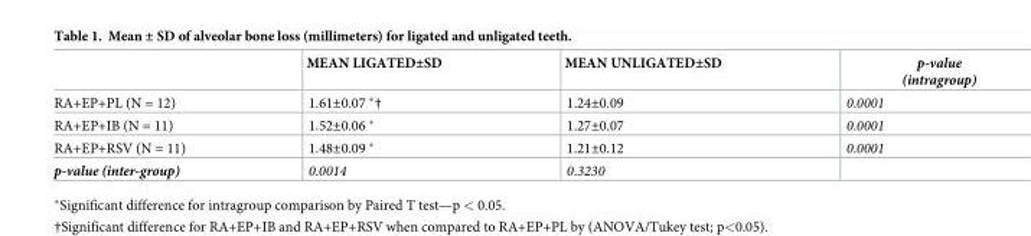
<table><thead><tr><td></td><td>MEAN LIGATED±SD</td><td>MEAN UNLIGATED±SD</td><td>p-value (intragroup)</td></tr></thead><tbody><tr><td>RA+EP+PL (N = 12)</td><td>1.61±0.07 *†</td><td>1.24±0.09</td><td>0.0001</td></tr><tr><td>RA+EP+IB (N = 11)</td><td>1.52±0.06 *</td><td>1.27±0.07</td><td>0.0001</td></tr><tr><td>RA+EP+RSV (N = 11)</td><td>1.48±0.09 *</td><td>1.21±0.12</td><td>0.0001</td></tr><tr><td>p-value (inter-group)</td><td>0.0014</td><td>0.3230</td><td></td></tr></tbody></table>